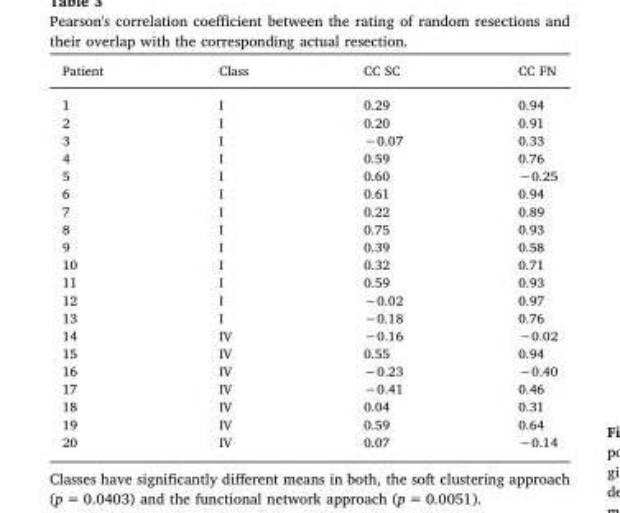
<table><thead><tr><td>Patient</td><td>Class</td><td>CC SC</td><td>CC FN</td></tr></thead><tbody><tr><td>1</td><td>I</td><td>0.29</td><td>0.94</td></tr><tr><td>2</td><td>I</td><td>0.20</td><td>0.91</td></tr><tr><td>3</td><td>I</td><td>−0.07</td><td>0.33</td></tr><tr><td>4</td><td>I</td><td>0.59</td><td>0.76</td></tr><tr><td>5</td><td>I</td><td>0.60</td><td>−0.25</td></tr><tr><td>6</td><td>I</td><td>0.61</td><td>0.94</td></tr><tr><td>7</td><td>I</td><td>0.22</td><td>0.89</td></tr><tr><td>8</td><td>I</td><td>0.75</td><td>0.93</td></tr><tr><td>9</td><td>I</td><td>0.39</td><td>0.58</td></tr><tr><td>10</td><td>I</td><td>0.32</td><td>0.71</td></tr><tr><td>11</td><td>I</td><td>0.59</td><td>0.93</td></tr><tr><td>12</td><td>I</td><td>−0.02</td><td>0.97</td></tr><tr><td>13</td><td>I</td><td>−0.18</td><td>0.76</td></tr><tr><td>14</td><td>IV</td><td>−0.16</td><td>−0.02</td></tr><tr><td>15</td><td>IV</td><td>0.55</td><td>0.94</td></tr><tr><td>16</td><td>IV</td><td>−0.23</td><td>−0.40</td></tr><tr><td>17</td><td>IV</td><td>−0.41</td><td>0.46</td></tr><tr><td>18</td><td>IV</td><td>0.04</td><td>0.31</td></tr><tr><td>19</td><td>IV</td><td>0.59</td><td>0.64</td></tr><tr><td>20</td><td>IV</td><td>0.07</td><td>−0.14</td></tr></tbody></table>